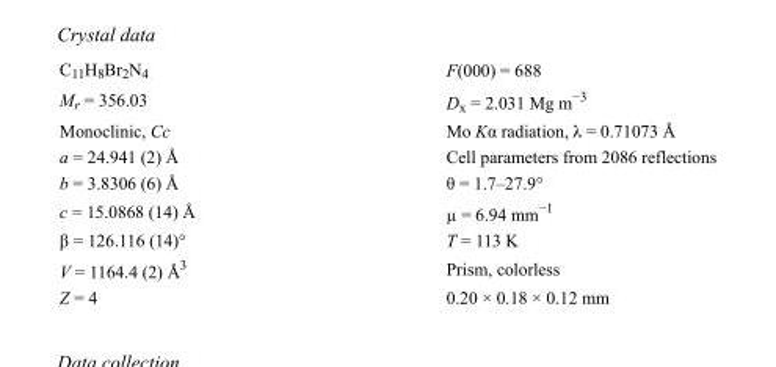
<table><tbody><tr><td>C<sub>11</sub>H<sub>8</sub>Br<sub>2</sub>N<sub>4</sub></td><td>F(000) = 688</td></tr><tr><td>M<sub>r</sub> = 356.03</td><td>D<sub>x</sub> = 2.031 Mg m<sup>−3</sup></td></tr><tr><td>Monoclinic, Cc</td><td>Mo Kα radiation, λ = 0.71073 Å</td></tr><tr><td>a = 24.941 (2) Å</td><td>Cell parameters from 2086 reflections</td></tr><tr><td>b = 3.8306 (6) Å</td><td>θ = 1.7–27.9°</td></tr><tr><td>c = 15.0868 (14) Å</td><td>µ = 6.94 mm<sup>−1</sup></td></tr><tr><td>β = 126.116 (14)°</td><td>T = 113 K</td></tr><tr><td>V = 1164.4 (2) Å<sup>3</sup></td><td>Prism, colorless</td></tr><tr><td>Z = 4</td><td>0.20 × 0.18 × 0.12 mm</td></tr></tbody></table>